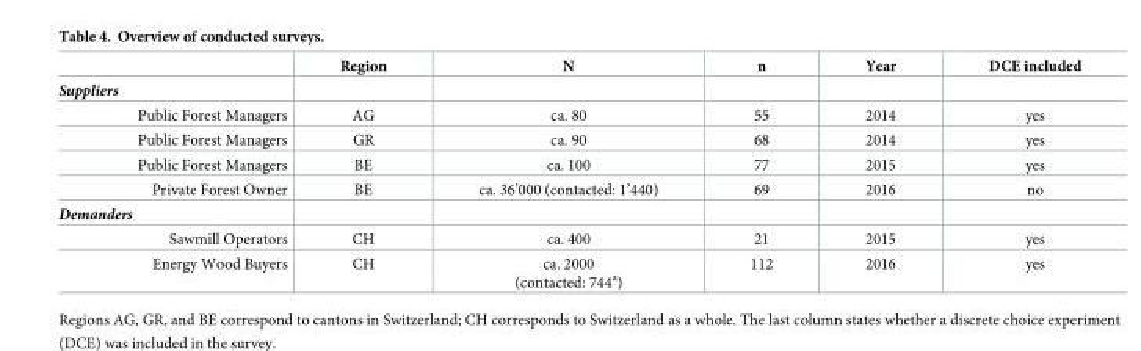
<table><thead><tr><td></td><td>Region</td><td>N</td><td>n</td><td>Year</td><td>DCE included</td></tr></thead><tbody><tr><td colspan="6">Suppliers</td></tr><tr><td>Public Forest Managers</td><td>AG</td><td>ca. 80</td><td>55</td><td>2014</td><td>yes</td></tr><tr><td>Public Forest Managers</td><td>GR</td><td>ca. 90</td><td>68</td><td>2014</td><td>yes</td></tr><tr><td>Public Forest Managers</td><td>BE</td><td>ca. 100</td><td>77</td><td>2015</td><td>yes</td></tr><tr><td>Private Forest Owner</td><td>BE</td><td>ca. 36’000 (contacted: 1’440)</td><td>69</td><td>2016</td><td>no</td></tr><tr><td colspan="6">Demanders</td></tr><tr><td>Sawmill Operators</td><td>CH</td><td>ca. 400</td><td>21</td><td>2015</td><td>yes</td></tr><tr><td>Energy Wood Buyers</td><td>CH</td><td>ca. 2000 (contacted: 744<sup>a</sup>)</td><td>112</td><td>2016</td><td>yes</td></tr></tbody></table>